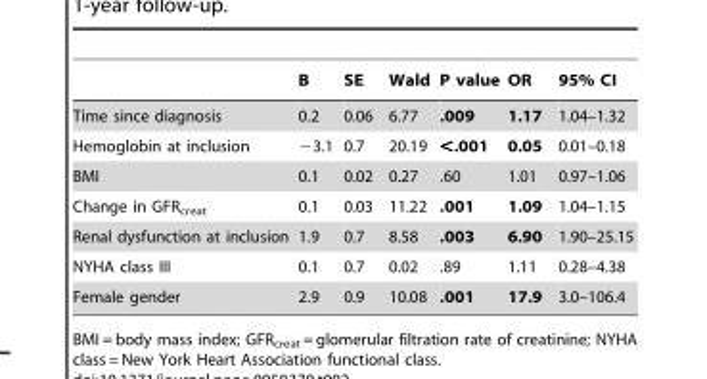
<table><thead><tr><td></td><td>B</td><td>SE</td><td>Wald</td><td>P value</td><td>OR</td><td>95% CI</td></tr></thead><tbody><tr><td>Time since diagnosis</td><td>0.2</td><td>0.06</td><td>6.77</td><td>.009</td><td>1.17</td><td>1.04–1.32</td></tr><tr><td>Hemoglobin at inclusion</td><td>−3.1</td><td>0.7</td><td>20.19</td><td>&lt;.001</td><td>0.05</td><td>0.01–0.18</td></tr><tr><td>BMI</td><td>0.1</td><td>0.02</td><td>0.27</td><td>.60</td><td>1.01</td><td>0.97–1.06</td></tr><tr><td>Change in GFR<sub>creat</sub></td><td>0.1</td><td>0.03</td><td>11.22</td><td>.001</td><td>1.09</td><td>1.04–1.15</td></tr><tr><td>Renal dysfunction at inclusion</td><td>1.9</td><td>0.7</td><td>8.58</td><td>.003</td><td>6.90</td><td>1.90–25.15</td></tr><tr><td>NYHA class III</td><td>0.1</td><td>0.7</td><td>0.02</td><td>.89</td><td>1.11</td><td>0.28–4.38</td></tr><tr><td>Female gender</td><td>2.9</td><td>0.9</td><td>10.08</td><td>.001</td><td>17.9</td><td>3.0–106.4</td></tr></tbody></table>